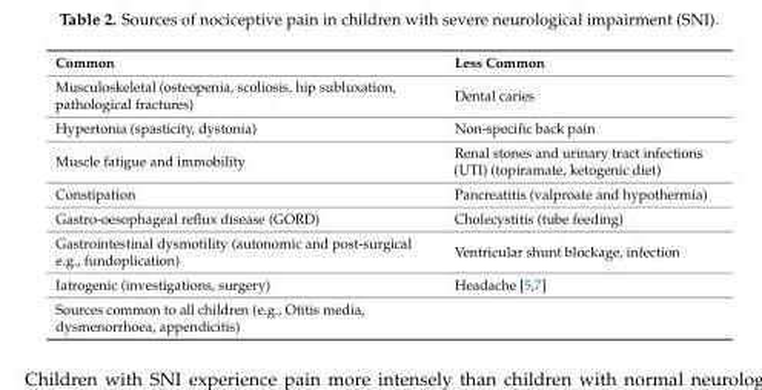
<table><thead><tr><td>Common</td><td>Less Common</td></tr></thead><tbody><tr><td>Musculoskeletal (osteopenia, scoliosis, hip subluxation, pathological fractures)</td><td>Dental caries</td></tr><tr><td>Hypertonia (spasticity, dystonia)</td><td>Non-specific back pain</td></tr><tr><td>Muscle fatigue and immobility</td><td>Renal stones and urinary tract infections (UTI) (topiramate, ketogenic diet)</td></tr><tr><td>Constipation</td><td>Pancreatitis (valproate and hypothermia)</td></tr><tr><td>Gastro-oesophageal reflux disease (GORD)</td><td>Cholecystitis (tube feeding)</td></tr><tr><td>Gastrointestinal dysmotility (autonomic and post-surgical e.g., fundoplication)</td><td>Ventricular shunt blockage, infection</td></tr><tr><td>Iatrogenic (investigations, surgery)</td><td>Headache [5,7]</td></tr><tr><td>Sources common to all children (e.g., Otitis media, dysmenorrhoea, appendicitis)</td><td></td></tr></tbody></table>